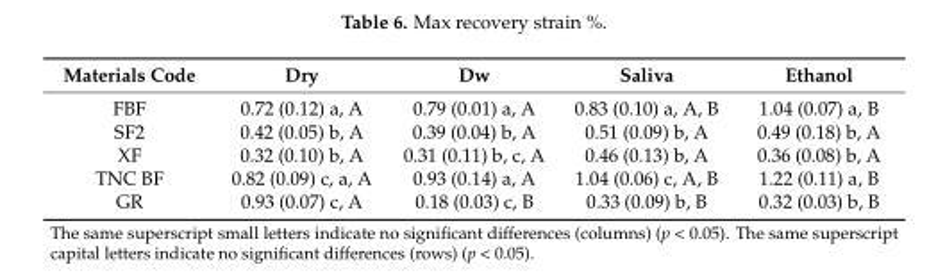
<table><thead><tr><td>Materials Code</td><td>Dry</td><td>Dw</td><td>Saliva</td><td>Ethanol</td></tr></thead><tbody><tr><td>FBF</td><td>0.72 (0.12) a, A</td><td>0.79 (0.01) a, A</td><td>0.83 (0.10) a, A, B</td><td>1.04 (0.07) a, B</td></tr><tr><td>SF2</td><td>0.42 (0.05) b, A</td><td>0.39 (0.04) b, A</td><td>0.51 (0.09) b, A</td><td>0.49 (0.18) b, A</td></tr><tr><td>XF</td><td>0.32 (0.10) b, A</td><td>0.31 (0.11) b, c, A</td><td>0.46 (0.13) b, A</td><td>0.36 (0.08) b, A</td></tr><tr><td>TNC BF</td><td>0.82 (0.09) c, a, A</td><td>0.93 (0.14) a, A</td><td>1.04 (0.06) c, A, B</td><td>1.22 (0.11) a, B</td></tr><tr><td>GR</td><td>0.93 (0.07) c, A</td><td>0.18 (0.03) c, B</td><td>0.33 (0.09) b, B</td><td>0.32 (0.03) b, B</td></tr></tbody></table>